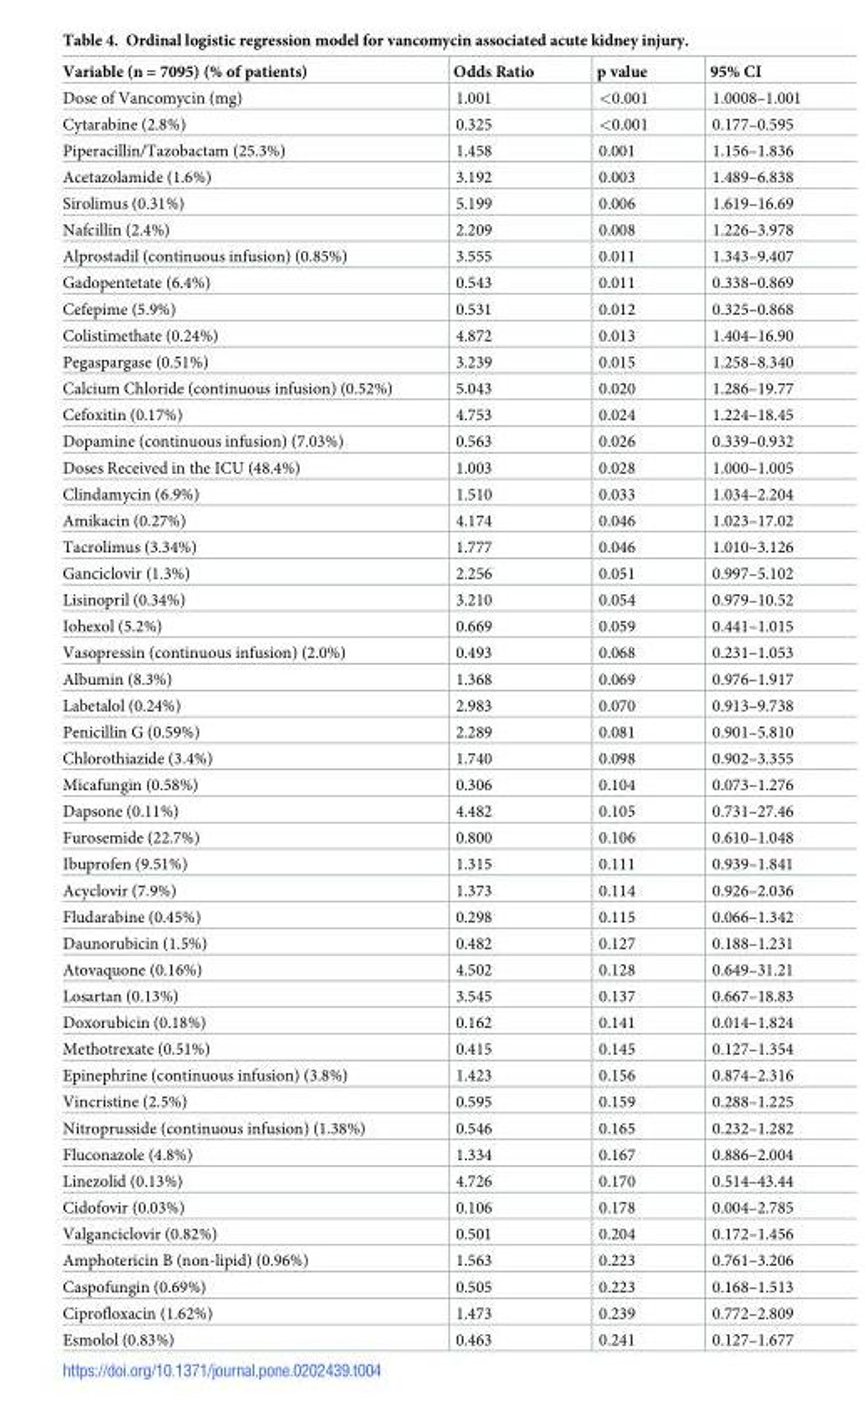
<table><thead><tr><td>Variable (n = 7095) (% of patients)</td><td>Odds Ratio</td><td>p value</td><td>95% CI</td></tr></thead><tbody><tr><td>Dose of Vancomycin (mg)</td><td>1.001</td><td>&lt;0.001</td><td>1.0008–1.001</td></tr><tr><td>Cytarabine (2.8%)</td><td>0.325</td><td>&lt;0.001</td><td>0.177–0.595</td></tr><tr><td>Piperacillin/Tazobactam (25.3%)</td><td>1.458</td><td>0.001</td><td>1.156–1.836</td></tr><tr><td>Acetazolamide (1.6%)</td><td>3.192</td><td>0.003</td><td>1.489–6.838</td></tr><tr><td>Sirolimus (0.31%)</td><td>5.199</td><td>0.006</td><td>1.619–16.69</td></tr><tr><td>Nafcillin (2.4%)</td><td>2.209</td><td>0.008</td><td>1.226–3.978</td></tr><tr><td>Alprostadil (continuous infusion) (0.85%)</td><td>3.555</td><td>0.011</td><td>1.343–9.407</td></tr><tr><td>Gadopentetate (6.4%)</td><td>0.543</td><td>0.011</td><td>0.338–0.869</td></tr><tr><td>Cefepime (5.9%)</td><td>0.531</td><td>0.012</td><td>0.325–0.868</td></tr><tr><td>Colistimethate (0.24%)</td><td>4.872</td><td>0.013</td><td>1.404–16.90</td></tr><tr><td>Pegaspargase (0.51%)</td><td>3.239</td><td>0.015</td><td>1.258–8.340</td></tr><tr><td>Calcium Chloride (continuous infusion) (0.52%)</td><td>5.043</td><td>0.020</td><td>1.286–19.77</td></tr><tr><td>Cefoxitin (0.17%)</td><td>4.753</td><td>0.024</td><td>1.224–18.45</td></tr><tr><td>Dopamine (continuous infusion) (7.03%)</td><td>0.563</td><td>0.026</td><td>0.339–0.932</td></tr><tr><td>Doses Received in the ICU (48.4%)</td><td>1.003</td><td>0.028</td><td>1.000–1.005</td></tr><tr><td>Clindamycin (6.9%)</td><td>1.510</td><td>0.033</td><td>1.034–2.204</td></tr><tr><td>Amikacin (0.27%)</td><td>4.174</td><td>0.046</td><td>1.023–17.02</td></tr><tr><td>Tacrolimus (3.34%)</td><td>1.777</td><td>0.046</td><td>1.010–3.126</td></tr><tr><td>Ganciclovir (1.3%)</td><td>2.256</td><td>0.051</td><td>0.997–5.102</td></tr><tr><td>Lisinopril (0.34%)</td><td>3.210</td><td>0.054</td><td>0.979–10.52</td></tr><tr><td>Iohexol (5.2%)</td><td>0.669</td><td>0.059</td><td>0.441–1.015</td></tr><tr><td>Vasopressin (continuous infusion) (2.0%)</td><td>0.493</td><td>0.068</td><td>0.231–1.053</td></tr><tr><td>Albumin (8.3%)</td><td>1.368</td><td>0.069</td><td>0.976–1.917</td></tr><tr><td>Labetalol (0.24%)</td><td>2.983</td><td>0.070</td><td>0.913–9.738</td></tr><tr><td>Penicillin G (0.59%)</td><td>2.289</td><td>0.081</td><td>0.901–5.810</td></tr><tr><td>Chlorothiazide (3.4%)</td><td>1.740</td><td>0.098</td><td>0.902–3.355</td></tr><tr><td>Micafungin (0.58%)</td><td>0.306</td><td>0.104</td><td>0.073–1.276</td></tr><tr><td>Dapsone (0.11%)</td><td>4.482</td><td>0.105</td><td>0.731–27.46</td></tr><tr><td>Furosemide (22.7%)</td><td>0.800</td><td>0.106</td><td>0.610–1.048</td></tr><tr><td>Ibuprofen (9.51%)</td><td>1.315</td><td>0.111</td><td>0.939–1.841</td></tr><tr><td>Acyclovir (7.9%)</td><td>1.373</td><td>0.114</td><td>0.926–2.036</td></tr><tr><td>Fludarabine (0.45%)</td><td>0.298</td><td>0.115</td><td>0.066–1.342</td></tr><tr><td>Daunorubicin (1.5%)</td><td>0.482</td><td>0.127</td><td>0.188–1.231</td></tr><tr><td>Atovaquone (0.16%)</td><td>4.502</td><td>0.128</td><td>0.649–31.21</td></tr><tr><td>Losartan (0.13%)</td><td>3.545</td><td>0.137</td><td>0.667–18.83</td></tr><tr><td>Doxorubicin (0.18%)</td><td>0.162</td><td>0.141</td><td>0.014–1.824</td></tr><tr><td>Methotrexate (0.51%)</td><td>0.415</td><td>0.145</td><td>0.127–1.354</td></tr><tr><td>Epinephrine (continuous infusion) (3.8%)</td><td>1.423</td><td>0.156</td><td>0.874–2.316</td></tr><tr><td>Vincristine (2.5%)</td><td>0.595</td><td>0.159</td><td>0.288–1.225</td></tr><tr><td>Nitroprusside (continuous infusion) (1.38%)</td><td>0.546</td><td>0.165</td><td>0.232–1.282</td></tr><tr><td>Fluconazole (4.8%)</td><td>1.334</td><td>0.167</td><td>0.886–2.004</td></tr><tr><td>Linezolid (0.13%)</td><td>4.726</td><td>0.170</td><td>0.514–43.44</td></tr><tr><td>Cidofovir (0.03%)</td><td>0.106</td><td>0.178</td><td>0.004–2.785</td></tr><tr><td>Valganciclovir (0.82%)</td><td>0.501</td><td>0.204</td><td>0.172–1.456</td></tr><tr><td>Amphotericin B (non-lipid) (0.96%)</td><td>1.563</td><td>0.223</td><td>0.761–3.206</td></tr><tr><td>Caspofungin (0.69%)</td><td>0.505</td><td>0.223</td><td>0.168–1.513</td></tr><tr><td>Ciprofloxacin (1.62%)</td><td>1.473</td><td>0.239</td><td>0.772–2.809</td></tr><tr><td>Esmolol (0.83%)</td><td>0.463</td><td>0.241</td><td>0.127–1.677</td></tr></tbody></table>